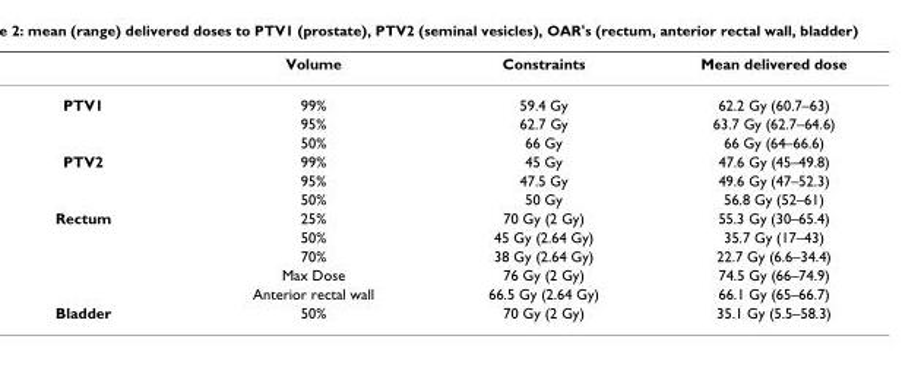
<table><thead><tr><td></td><td>Volume</td><td>Constraints</td><td>Mean delivered dose</td></tr></thead><tbody><tr><td rowspan="3">PTV1</td><td>99%</td><td>59.4 Gy</td><td>62.2 Gy (60.7–63)</td></tr><tr><td>95%</td><td>62.7 Gy</td><td>63.7 Gy (62.7–64.6)</td></tr><tr><td>50%</td><td>66 Gy</td><td>66 Gy (64–66.6)</td></tr><tr><td rowspan="3">PTV2</td><td>99%</td><td>45 Gy</td><td>47.6 Gy (45–49.8)</td></tr><tr><td>95%</td><td>47.5 Gy</td><td>49.6 Gy (47–52.3)</td></tr><tr><td>50%</td><td>50 Gy</td><td>56.8 Gy (52–61)</td></tr><tr><td rowspan="5">Rectum</td><td>25%</td><td>70 Gy (2 Gy)</td><td>55.3 Gy (30–65.4)</td></tr><tr><td>50%</td><td>45 Gy (2.64 Gy)</td><td>35.7 Gy (17–43)</td></tr><tr><td>70%</td><td>38 Gy (2.64 Gy)</td><td>22.7 Gy (6.6–34.4)</td></tr><tr><td>Max Dose</td><td>76 Gy (2 Gy)</td><td>74.5 Gy (66–74.9)</td></tr><tr><td>Anterior rectal wall</td><td>66.5 Gy (2.64 Gy)</td><td>66.1 Gy (65–66.7)</td></tr><tr><td>Bladder</td><td>50%</td><td>70 Gy (2 Gy)</td><td>35.1 Gy (5.5–58.3)</td></tr></tbody></table>